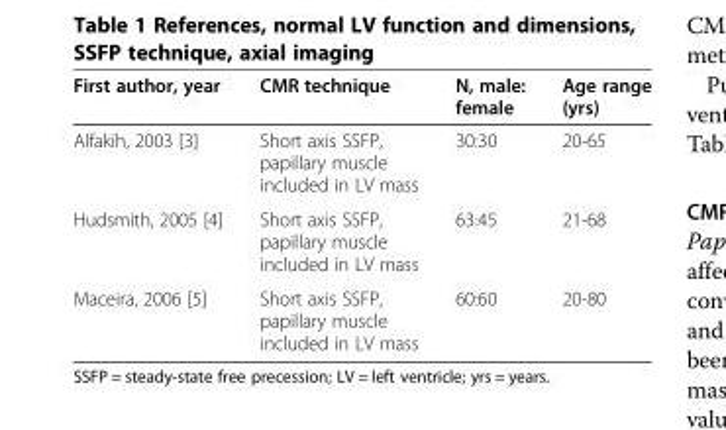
<table><thead><tr><td>First author, year</td><td>CMR technique</td><td>N, male: female</td><td>Age range (yrs)</td></tr></thead><tbody><tr><td>Alfakih, 2003 [3]</td><td>Short axis SSFP, papillary muscle included in LV mass</td><td>30:30</td><td>20-65</td></tr><tr><td>Hudsmith, 2005 [4]</td><td>Short axis SSFP, papillary muscle included in LV mass</td><td>63:45</td><td>21-68</td></tr><tr><td>Maceira, 2006 [5]</td><td>Short axis SSFP, papillary muscle included in LV mass</td><td>60:60</td><td>20-80</td></tr></tbody></table>